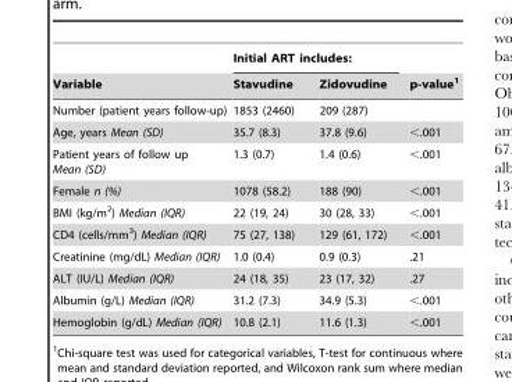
<table><thead><tr><td rowspan="2">Variable</td><td colspan="2">Initial ART includes:</td><td rowspan="2">p-value<sup>1</sup></td></tr><tr><td>Stavudine</td><td>Zidovudine</td></tr></thead><tbody><tr><td>Number (patient years follow-up)</td><td>1853 (2460)</td><td>209 (287)</td><td></td></tr><tr><td>Age, years Mean (SD)</td><td>35.7 (8.3)</td><td>37.8 (9.6)</td><td>&lt;.001</td></tr><tr><td>Patient years of follow up Mean (SD)</td><td>1.3 (0.7)</td><td>1.4 (0.6)</td><td>&lt;.001</td></tr><tr><td>Female n (%)</td><td>1078 (58.2)</td><td>188 (90)</td><td>&lt;.001</td></tr><tr><td>BMI (kg/m<sup>2</sup>) Median (IQR)</td><td>22 (19, 24)</td><td>30 (28, 33)</td><td>&lt;.001</td></tr><tr><td>CD4 (cells/mm<sup>3</sup>) Median (IQR)</td><td>75 (27, 138)</td><td>129 (61, 172)</td><td>&lt;.001</td></tr><tr><td>Creatinine (mg/dL) Median (IQR)</td><td>1.0 (0.4)</td><td>0.9 (0.3)</td><td>.21</td></tr><tr><td>ALT (IU/L) Median (IQR)</td><td>24 (18, 35)</td><td>23 (17, 32)</td><td>.27</td></tr><tr><td>Albumin (g/L) Median (IQR)</td><td>31.2 (7.3)</td><td>34.9 (5.3)</td><td>&lt;.001</td></tr><tr><td>Hemoglobin (g/dL) Median (IQR)</td><td>10.8 (2.1)</td><td>11.6 (1.3)</td><td>&lt;.001</td></tr></tbody></table>